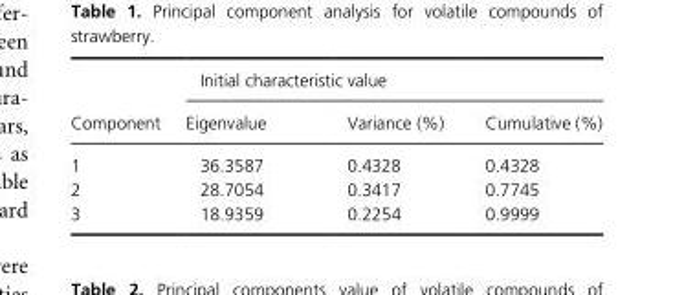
<table><thead><tr><td rowspan="2">Component</td><td colspan="3">Initial characteristic value</td></tr><tr><td>Eigenvalue</td><td>Variance (%)</td><td>Cumulative (%)</td></tr></thead><tbody><tr><td>1</td><td>36.3587</td><td>0.4328</td><td>0.4328</td></tr><tr><td>2</td><td>28.7054</td><td>0.3417</td><td>0.7745</td></tr><tr><td>3</td><td>18.9359</td><td>0.2254</td><td>0.9999</td></tr></tbody></table>